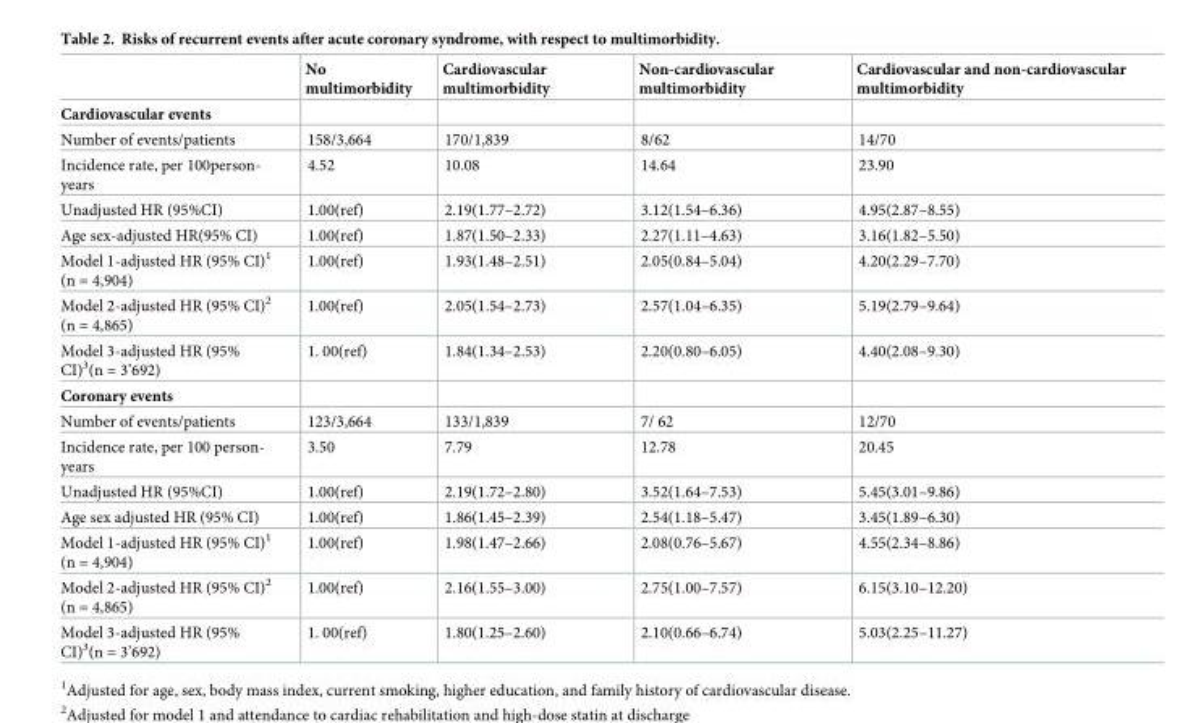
<table><thead><tr><td></td><td>No multimorbidity</td><td>Cardiovascular multimorbidity</td><td>Non-cardiovascular multimorbidity</td><td>Cardiovascular and non-cardiovascular multimorbidity</td></tr></thead><tbody><tr><td colspan="5">Cardiovascular events</td></tr><tr><td>Number of events/patients</td><td>158/3,664</td><td>170/1,839</td><td>8/62</td><td>14/70</td></tr><tr><td>Incidence rate, per 100person- years</td><td>4.52</td><td>10.08</td><td>14.64</td><td>23.90</td></tr><tr><td>Unadjusted HR (95%CI)</td><td>1.00(ref)</td><td>2.19(1.77–2.72)</td><td>3.12(1.54–6.36)</td><td>4.95(2.87–8.55)</td></tr><tr><td>Age sex-adjusted HR(95% CI)</td><td>1.00(ref)</td><td>1.87(1.50–2.33)</td><td>2.27(1.11–4.63)</td><td>3.16(1.82–5.50)</td></tr><tr><td>Model 1-adjusted HR (95% CI)<sup>1</sup> (n = 4,904)</td><td>1.00(ref)</td><td>1.93(1.48–2.51)</td><td>2.05(0.84–5.04)</td><td>4.20(2.29–7.70)</td></tr><tr><td>Model 2-adjusted HR (95% CI)<sup>2</sup> (n = 4,865)</td><td>1.00(ref)</td><td>2.05(1.54–2.73)</td><td>2.57(1.04–6.35)</td><td>5.19(2.79–9.64)</td></tr><tr><td>Model 3-adjusted HR (95% CI)<sup>3</sup>(n = 3’692)</td><td>1. 00(ref)</td><td>1.84(1.34–2.53)</td><td>2.20(0.80–6.05)</td><td>4.40(2.08–9.30)</td></tr><tr><td colspan="5">Coronary events</td></tr><tr><td>Number of events/patients</td><td>123/3,664</td><td>133/1,839</td><td>7/ 62</td><td>12/70</td></tr><tr><td>Incidence rate, per 100 person- years</td><td>3.50</td><td>7.79</td><td>12.78</td><td>20.45</td></tr><tr><td>Unadjusted HR (95%CI)</td><td>1.00(ref)</td><td>2.19(1.72–2.80)</td><td>3.52(1.64–7.53)</td><td>5.45(3.01–9.86)</td></tr><tr><td>Age sex adjusted HR (95% CI)</td><td>1.00(ref)</td><td>1.86(1.45–2.39)</td><td>2.54(1.18–5.47)</td><td>3.45(1.89–6.30)</td></tr><tr><td>Model 1-adjusted HR (95% CI)<sup>1</sup> (n = 4,904)</td><td>1.00(ref)</td><td>1.98(1.47–2.66)</td><td>2.08(0.76–5.67)</td><td>4.55(2.34–8.86)</td></tr><tr><td>Model 2-adjusted HR (95% CI)<sup>2</sup> (n = 4,865)</td><td>1.00(ref)</td><td>2.16(1.55–3.00)</td><td>2.75(1.00–7.57)</td><td>6.15(3.10–12.20)</td></tr><tr><td>Model 3-adjusted HR (95% CI)<sup>3</sup>(n = 3’692)</td><td>1. 00(ref)</td><td>1.80(1.25–2.60)</td><td>2.10(0.66–6.74)</td><td>5.03(2.25–11.27)</td></tr></tbody></table>